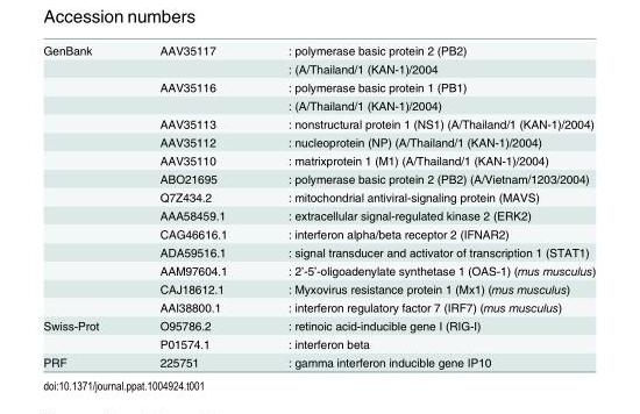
<table><tbody><tr><td rowspan="15">GenBank</td><td>AAV35117</td><td>: polymerase basic protein 2 (PB2)</td></tr><tr><td></td><td>: (A/Thailand/1 (KAN-1)/2004</td></tr><tr><td>AAV35116</td><td>: polymerase basic protein 1 (PB1)</td></tr><tr><td></td><td>: (A/Thailand/1 (KAN-1)/2004)</td></tr><tr><td>AAV35113</td><td>: nonstructural protein 1 (NS1) (A/Thailand/1 (KAN-1)/2004)</td></tr><tr><td>AAV35112</td><td>: nucleoprotein (NP) (A/Thailand/1 (KAN-1)/2004)</td></tr><tr><td>AAV35110</td><td>: matrixprotein 1 (M1) (A/Thailand/1 (KAN-1)/2004)</td></tr><tr><td>ABO21695</td><td>: polymerase basic protein 2 (PB2) (A/Vietnam/1203/2004)</td></tr><tr><td>Q7Z434.2</td><td>: mitochondrial antiviral-signaling protein (MAVS)</td></tr><tr><td>AAA58459.1</td><td>: extracellular signal-regulated kinase 2 (ERK2)</td></tr><tr><td>CAG46616.1</td><td>: interferon alpha/beta receptor 2 (IFNAR2)</td></tr><tr><td>ADA59516.1</td><td>: signal transducer and activator of transcription 1 (STAT1)</td></tr><tr><td>AAM97604.1</td><td>: 2’-5’-oligoadenylate synthetase 1 (OAS-1) (mus musculus)</td></tr><tr><td>CAJ18612.1</td><td>: Myxovirus resistance protein 1 (Mx1) (mus musculus)</td></tr><tr><td>AAI38800.1</td><td>: interferon regulatory factor 7 (IRF7) (mus musculus)</td></tr><tr><td rowspan="2">Swiss-Prot</td><td>O95786.2</td><td>: retinoic acid-inducible gene I (RIG-I)</td></tr><tr><td>P01574.1</td><td>: interferon beta</td></tr><tr><td>PRF</td><td>225751</td><td>: gamma interferon inducible gene IP10</td></tr></tbody></table>